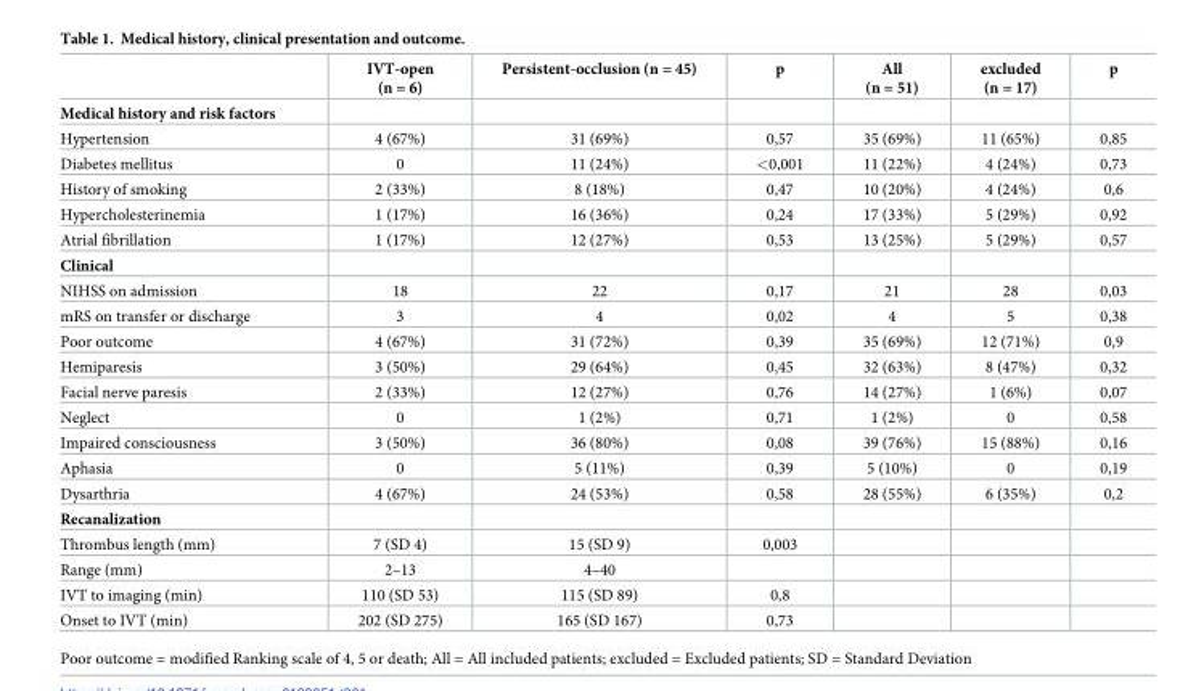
<table><thead><tr><td></td><td>IVT-open (n = 6)</td><td>Persistent-occlusion (n = 45)</td><td>p</td><td>All (n = 51)</td><td>excluded (n = 17)</td><td>p</td></tr></thead><tbody><tr><td colspan="7">Medical history and risk factors</td></tr><tr><td>Hypertension</td><td>4 (67%)</td><td>31 (69%)</td><td>0,57</td><td>35 (69%)</td><td>11 (65%)</td><td>0,85</td></tr><tr><td>Diabetes mellitus</td><td>0</td><td>11 (24%)</td><td>&lt;0,001</td><td>11 (22%)</td><td>4 (24%)</td><td>0,73</td></tr><tr><td>History of smoking</td><td>2 (33%)</td><td>8 (18%)</td><td>0,47</td><td>10 (20%)</td><td>4 (24%)</td><td>0,6</td></tr><tr><td>Hypercholesterinemia</td><td>1 (17%)</td><td>16 (36%)</td><td>0,24</td><td>17 (33%)</td><td>5 (29%)</td><td>0,92</td></tr><tr><td>Atrial fibrillation</td><td>1 (17%)</td><td>12 (27%)</td><td>0,53</td><td>13 (25%)</td><td>5 (29%)</td><td>0,57</td></tr><tr><td colspan="7">Clinical</td></tr><tr><td>NIHSS on admission</td><td>18</td><td>22</td><td>0,17</td><td>21</td><td>28</td><td>0,03</td></tr><tr><td>mRS on transfer or discharge</td><td>3</td><td>4</td><td>0,02</td><td>4</td><td>5</td><td>0,38</td></tr><tr><td>Poor outcome</td><td>4 (67%)</td><td>31 (72%)</td><td>0,39</td><td>35 (69%)</td><td>12 (71%)</td><td>0,9</td></tr><tr><td>Hemiparesis</td><td>3 (50%)</td><td>29 (64%)</td><td>0,45</td><td>32 (63%)</td><td>8 (47%)</td><td>0,32</td></tr><tr><td>Facial nerve paresis</td><td>2 (33%)</td><td>12 (27%)</td><td>0,76</td><td>14 (27%)</td><td>1 (6%)</td><td>0,07</td></tr><tr><td>Neglect</td><td>0</td><td>1 (2%)</td><td>0,71</td><td>1 (2%)</td><td>0</td><td>0,58</td></tr><tr><td>Impaired consciousness</td><td>3 (50%)</td><td>36 (80%)</td><td>0,08</td><td>39 (76%)</td><td>15 (88%)</td><td>0,16</td></tr><tr><td>Aphasia</td><td>0</td><td>5 (11%)</td><td>0,39</td><td>5 (10%)</td><td>0</td><td>0,19</td></tr><tr><td>Dysarthria</td><td>4 (67%)</td><td>24 (53%)</td><td>0,58</td><td>28 (55%)</td><td>6 (35%)</td><td>0,2</td></tr><tr><td colspan="7">Recanalization</td></tr><tr><td>Thrombus length (mm)</td><td>7 (SD 4)</td><td>15 (SD 9)</td><td>0,003</td><td></td><td></td><td></td></tr><tr><td>Range (mm)</td><td>2–13</td><td>4–40</td><td></td><td></td><td></td><td></td></tr><tr><td>IVT to imaging (min)</td><td>110 (SD 53)</td><td>115 (SD 89)</td><td>0,8</td><td></td><td></td><td></td></tr><tr><td>Onset to IVT (min)</td><td>202 (SD 275)</td><td>165 (SD 167)</td><td>0,73</td><td></td><td></td><td></td></tr></tbody></table>